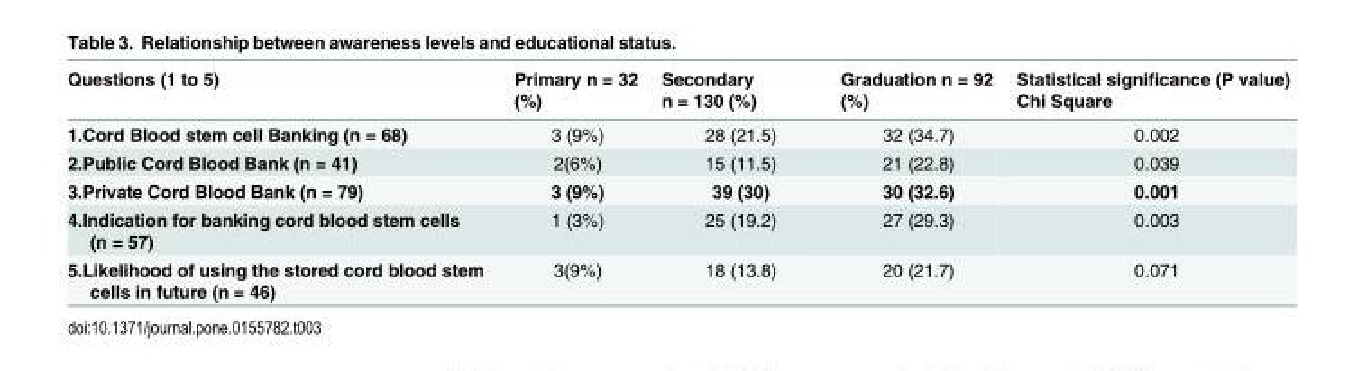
<table><thead><tr><td>Questions (1 to 5)</td><td>Primary n = 32 (%)</td><td>Secondary n = 130 (%)</td><td>Graduation n = 92 (%)</td><td>Statistical significance (P value) Chi Square</td></tr></thead><tbody><tr><td>1.Cord Blood stem cell Banking (n = 68)</td><td>3 (9%)</td><td>28 (21.5)</td><td>32 (34.7)</td><td>0.002</td></tr><tr><td>2.Public Cord Blood Bank (n = 41)</td><td>2(6%)</td><td>15 (11.5)</td><td>21 (22.8)</td><td>0.039</td></tr><tr><td>3.Private Cord Blood Bank (n = 79)</td><td>3 (9%)</td><td>39 (30)</td><td>30 (32.6)</td><td>0.001</td></tr><tr><td>4.Indication for banking cord blood stem cells (n = 57)</td><td>1 (3%)</td><td>25 (19.2)</td><td>27 (29.3)</td><td>0.003</td></tr><tr><td>5.Likelihood of using the stored cord blood stem cells in future (n = 46)</td><td>3(9%)</td><td>18 (13.8)</td><td>20 (21.7)</td><td>0.071</td></tr></tbody></table>